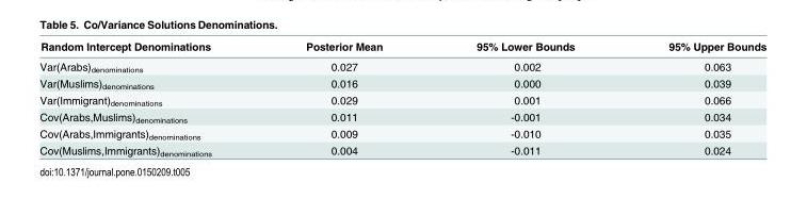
<table><thead><tr><td>Random Intercept Denominations</td><td>Posterior Mean</td><td>95% Lower Bounds</td><td>95% Upper Bounds</td></tr></thead><tbody><tr><td>Var(Arabs)<sub>denominations</sub></td><td>0.027</td><td>0.002</td><td>0.063</td></tr><tr><td>Var(Muslims)<sub>denominations</sub></td><td>0.016</td><td>0.000</td><td>0.039</td></tr><tr><td>Var(Immigrant)<sub>denominations</sub></td><td>0.029</td><td>0.001</td><td>0.066</td></tr><tr><td>Cov(Arabs,Muslims)<sub>denominations</sub></td><td>0.011</td><td>-0.001</td><td>0.034</td></tr><tr><td>Cov(Arabs,Immigrants)<sub>denominations</sub></td><td>0.009</td><td>-0.010</td><td>0.035</td></tr><tr><td>Cov(Muslims,Immigrants)<sub>denominations</sub></td><td>0.004</td><td>-0.011</td><td>0.024</td></tr></tbody></table>